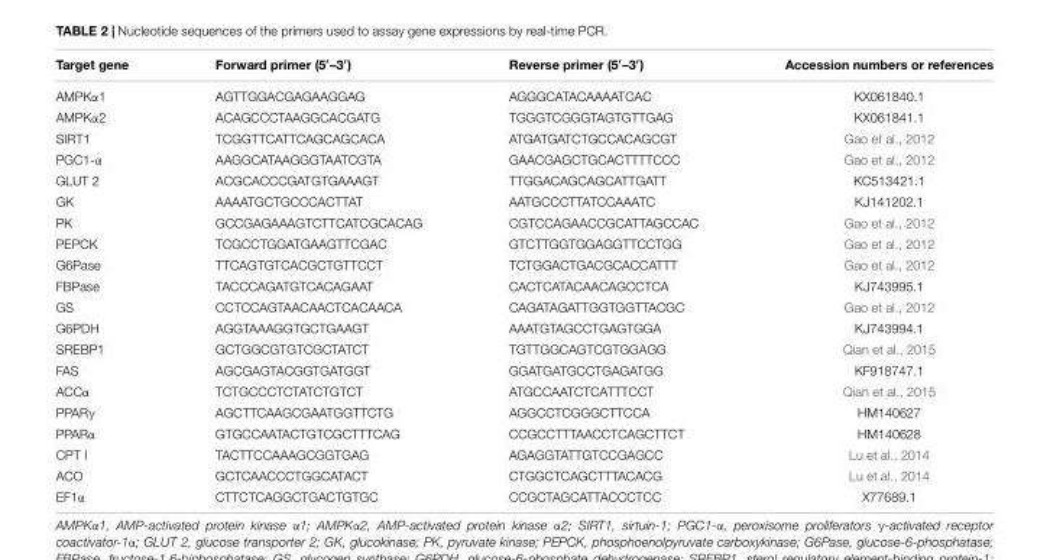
<table><thead><tr><td>Target gene</td><td>Forward primer (5′–3′)</td><td>Reverse primer (5′–3′)</td><td>Accession numbers or references</td></tr></thead><tbody><tr><td>AMPKα1</td><td>AGTTGGACGAGAAGGAG</td><td>AGGGCATACAAAATCAC</td><td>KX061840.1</td></tr><tr><td>AMPKα2</td><td>ACAGCCCTAAGGCACGATG</td><td>TGGGTCGGGTAGTGTTGAG</td><td>KX061841.1</td></tr><tr><td>SIRT1</td><td>TCGGTTCATTCAGCAGCACA</td><td>ATGATGATCTGCCACAGCGT</td><td>Gao et al., 2012</td></tr><tr><td>PGC1-α</td><td>AAGGCATAAGGGTAATCGTA</td><td>GAACGAGCTGCACTTTTCCC</td><td>Gao et al., 2012</td></tr><tr><td>GLUT 2</td><td>ACGCACCCGATGTGAAAGT</td><td>TTGGACAGCAGCATTGATT</td><td>KC513421.1</td></tr><tr><td>GK</td><td>AAAATGCTGCCCACTTAT</td><td>AATGCCCTTATCCAAATC</td><td>KJ141202.1</td></tr><tr><td>PK</td><td>GCCGAGAAAGTCTTCATCGCACAG</td><td>CGTCCAGAACCGCATTAGCCAC</td><td>Gao et al., 2012</td></tr><tr><td>PEPCK</td><td>TCGCCTGGATGAAGTTCGAC</td><td>GTCTTGGTGGAGGTTCCTGG</td><td>Gao et al., 2012</td></tr><tr><td>G6Pase</td><td>TTCAGTGTCACGCTGTTCCT</td><td>TCTGGACTGACGCACCATTT</td><td>Gao et al., 2012</td></tr><tr><td>FBPase</td><td>TACCCAGATGTCACAGAAT</td><td>CACTCATACAACAGCCTCA</td><td>KJ743995.1</td></tr><tr><td>GS</td><td>CCTCCAGTAACAACTCACAACA</td><td>CAGATAGATTGGTGGTTACGC</td><td>Gao et al., 2012</td></tr><tr><td>G6PDH</td><td>AGGTAAAGGTGCTGAAGT</td><td>AAATGTAGCCTGAGTGGA</td><td>KJ743994.1</td></tr><tr><td>SREBP1</td><td>GCTGGCGTGTCGCTATCT</td><td>TGTTGGCAGTCGTGGAGG</td><td>Qian et al., 2015</td></tr><tr><td>FAS</td><td>AGCGAGTACGGTGATGGT</td><td>GGATGATGCCTGAGATGG</td><td>KF918747.1</td></tr><tr><td>ACCα</td><td>TCTGCCCTCTATCTGTCT</td><td>ATGCCAATCTCATTTCCT</td><td>Qian et al., 2015</td></tr><tr><td>PPARγ</td><td>AGCTTCAAGCGAATGGTTCTG</td><td>AGGCCTCGGGCTTCCA</td><td>HM140627</td></tr><tr><td>PPARα</td><td>GTGCCAATACTGTCGCTTTCAG</td><td>CCGCCTTTAACCTCAGCTTCT</td><td>HM140628</td></tr><tr><td>CPT I</td><td>TACTTCCAAAGCGGTGAG</td><td>AGAGGTATTGTCCGAGCC</td><td>Lu et al., 2014</td></tr><tr><td>ACO</td><td>GCTCAACCCTGGCATACT</td><td>CTGGCTCAGCTTTACACG</td><td>Lu et al., 2014</td></tr><tr><td>EF1α</td><td>CTTCTCAGGCTGACTGTGC</td><td>CCGCTAGCATTACCCTCC</td><td>X77689.1</td></tr></tbody></table>